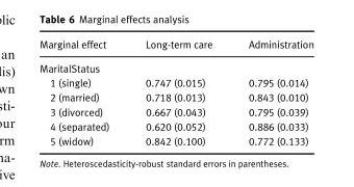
<table><thead><tr><td>Marginal effect</td><td>Long-term care</td><td>Administration</td></tr></thead><tbody><tr><td colspan="3">MaritalStatus</td></tr><tr><td>1 (single)</td><td>0.747 (0.015)</td><td>0.795 (0.014)</td></tr><tr><td>2 (married)</td><td>0.718 (0.013)</td><td>0.843 (0.010)</td></tr><tr><td>3 (divorced)</td><td>0.667 (0.043)</td><td>0.795 (0.039)</td></tr><tr><td>4 (separated)</td><td>0.620 (0.052)</td><td>0.886 (0.033)</td></tr><tr><td>5 (widow)</td><td>0.842 (0.100)</td><td>0.772 (0.133)</td></tr></tbody></table>